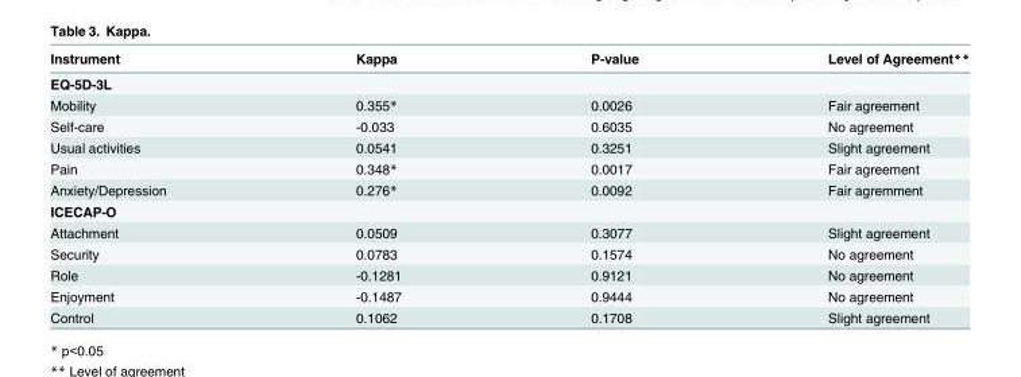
<table><thead><tr><td>Instrument</td><td>Kappa</td><td>P-value</td><td>Level of Agreement**</td></tr></thead><tbody><tr><td colspan="4">EQ-5D-3L</td></tr><tr><td>Mobility</td><td>0.355*</td><td>0.0026</td><td>Fair agreement</td></tr><tr><td>Self-care</td><td>-0.033</td><td>0.6035</td><td>No agreement</td></tr><tr><td>Usual activities</td><td>0.0541</td><td>0.3251</td><td>Slight agreement</td></tr><tr><td>Pain</td><td>0.348*</td><td>0.0017</td><td>Fair agreement</td></tr><tr><td>Anxiety/Depression</td><td>0.276*</td><td>0.0092</td><td>Fair agremment</td></tr><tr><td colspan="4">ICECAP-O</td></tr><tr><td>Attachment</td><td>0.0509</td><td>0.3077</td><td>Slight agreement</td></tr><tr><td>Security</td><td>0.0783</td><td>0.1574</td><td>No agreement</td></tr><tr><td>Role</td><td>-0.1281</td><td>0.9121</td><td>No agreement</td></tr><tr><td>Enjoyment</td><td>-0.1487</td><td>0.9444</td><td>No agreement</td></tr><tr><td>Control</td><td>0.1062</td><td>0.1708</td><td>Slight agreement</td></tr></tbody></table>